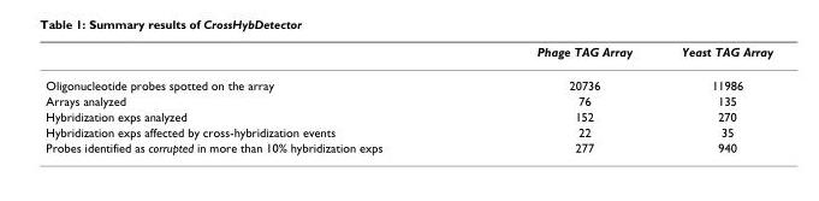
<table><thead><tr><td></td><td>Phage TAG Array</td><td>Yeast TAG Array</td></tr></thead><tbody><tr><td>Oligonucleotide probes spotted on the array</td><td>20736</td><td>11986</td></tr><tr><td>Arrays analyzed</td><td>76</td><td>135</td></tr><tr><td>Hybridization exps analyzed</td><td>152</td><td>270</td></tr><tr><td>Hybridization exps affected by cross-hybridization events</td><td>22</td><td>35</td></tr><tr><td>Probes identified as corrupted in more than 10% hybridization exps</td><td>277</td><td>940</td></tr></tbody></table>